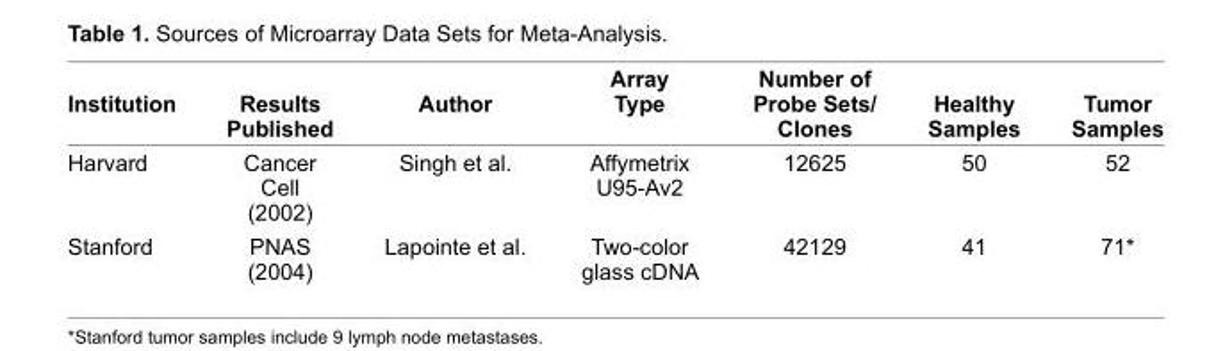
<table><thead><tr><td>Institution</td><td>Results Published</td><td>Author</td><td>Array Type</td><td>Number of Probe Sets/ Clones</td><td>Healthy Samples</td><td>Tumor Samples</td></tr></thead><tbody><tr><td>Harvard</td><td>Cancer Cell (2002)</td><td>Singh et al.</td><td>Affymetrix U95-Av2</td><td>12625</td><td>50</td><td>52</td></tr><tr><td>Stanford</td><td>PNAS (2004)</td><td>Lapointe et al.</td><td>Two-color glass cDNA</td><td>42129</td><td>41</td><td>71*</td></tr></tbody></table>